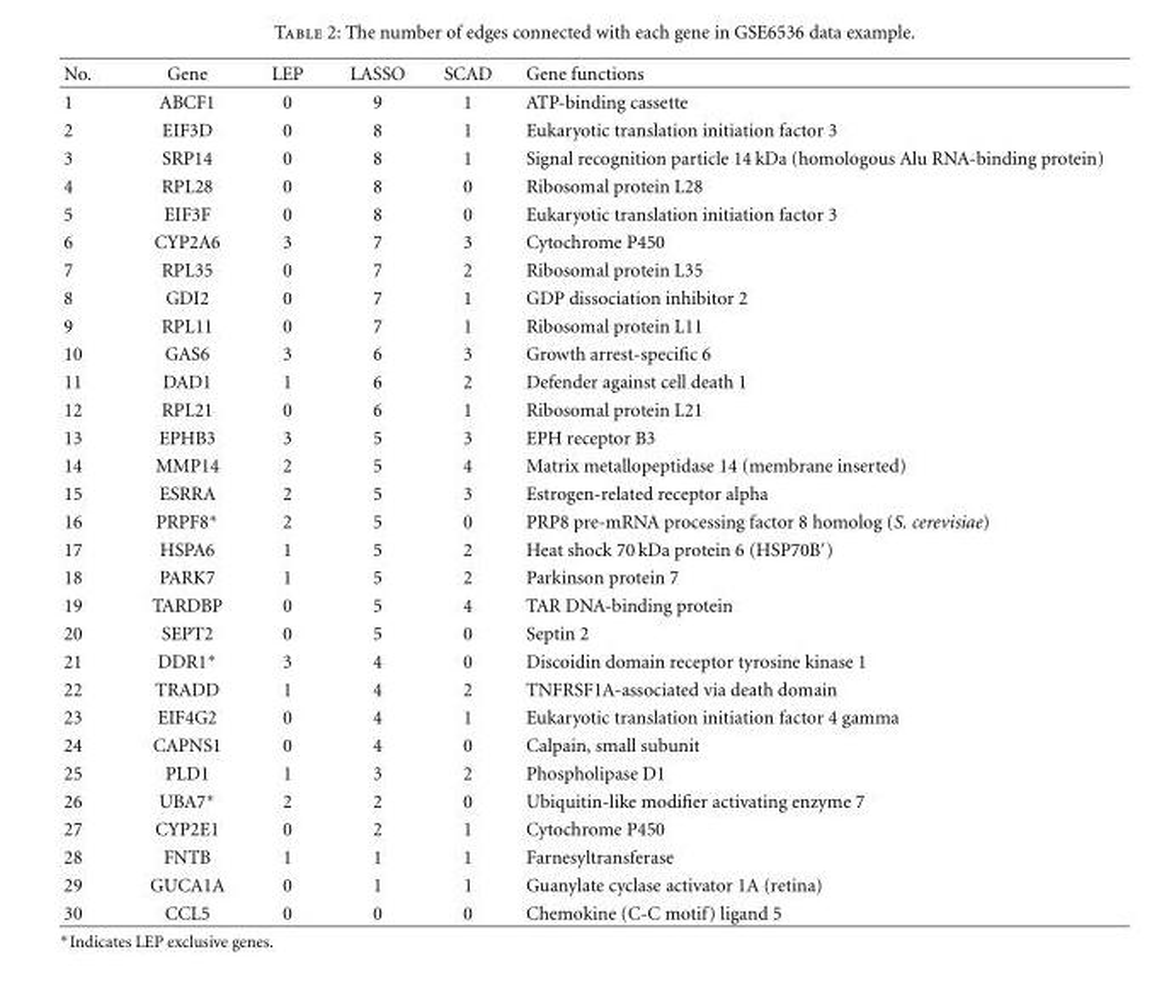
<table><thead><tr><td>No.</td><td>Gene</td><td>LEP</td><td>LASSO</td><td>SCAD</td><td>Gene functions</td></tr></thead><tbody><tr><td>1</td><td>ABCF1</td><td>0</td><td>9</td><td>1</td><td>ATP-binding cassette</td></tr><tr><td>2</td><td>EIF3D</td><td>0</td><td>8</td><td>1</td><td>Eukaryotic translation initiation factor 3</td></tr><tr><td>3</td><td>SRP14</td><td>0</td><td>8</td><td>1</td><td>Signal recognition particle 14 kDa (homologous Alu RNA-binding protein)</td></tr><tr><td>4</td><td>RPL28</td><td>0</td><td>8</td><td>0</td><td>Ribosomal protein L28</td></tr><tr><td>5</td><td>EIF3F</td><td>0</td><td>8</td><td>0</td><td>Eukaryotic translation initiation factor 3</td></tr><tr><td>6</td><td>CYP2A6</td><td>3</td><td>7</td><td>3</td><td>Cytochrome P450</td></tr><tr><td>7</td><td>RPL35</td><td>0</td><td>7</td><td>2</td><td>Ribosomal protein L35</td></tr><tr><td>8</td><td>GDI2</td><td>0</td><td>7</td><td>1</td><td>GDP dissociation inhibitor 2</td></tr><tr><td>9</td><td>RPL11</td><td>0</td><td>7</td><td>1</td><td>Ribosomal protein L11</td></tr><tr><td>10</td><td>GAS6</td><td>3</td><td>6</td><td>3</td><td>Growth arrest-specific 6</td></tr><tr><td>11</td><td>DAD1</td><td>1</td><td>6</td><td>2</td><td>Defender against cell death 1</td></tr><tr><td>12</td><td>RPL21</td><td>0</td><td>6</td><td>1</td><td>Ribosomal protein L21</td></tr><tr><td>13</td><td>EPHB3</td><td>3</td><td>5</td><td>3</td><td>EPH receptor B3</td></tr><tr><td>14</td><td>MMP14</td><td>2</td><td>5</td><td>4</td><td>Matrix metallopeptidase 14 (membrane inserted)</td></tr><tr><td>15</td><td>ESRRA</td><td>2</td><td>5</td><td>3</td><td>Estrogen-related receptor alpha</td></tr><tr><td>16</td><td>PRPF8∗</td><td>2</td><td>5</td><td>0</td><td>PRP8 pre-mRNA processing factor 8 homolog (S. cerevisiae)</td></tr><tr><td>17</td><td>HSPA6</td><td>1</td><td>5</td><td>2</td><td>Heat shock 70 kDa protein 6 (HSP70B′)</td></tr><tr><td>18</td><td>PARK7</td><td>1</td><td>5</td><td>2</td><td>Parkinson protein 7</td></tr><tr><td>19</td><td>TARDBP</td><td>0</td><td>5</td><td>4</td><td>TAR DNA-binding protein</td></tr><tr><td>20</td><td>SEPT2</td><td>0</td><td>5</td><td>0</td><td>Septin 2</td></tr><tr><td>21</td><td>DDR1∗</td><td>3</td><td>4</td><td>0</td><td>Discoidin domain receptor tyrosine kinase 1</td></tr><tr><td>22</td><td>TRADD</td><td>1</td><td>4</td><td>2</td><td>TNFRSF1A-associated via death domain</td></tr><tr><td>23</td><td>EIF4G2</td><td>0</td><td>4</td><td>1</td><td>Eukaryotic translation initiation factor 4 gamma</td></tr><tr><td>24</td><td>CAPNS1</td><td>0</td><td>4</td><td>0</td><td>Calpain, small subunit</td></tr><tr><td>25</td><td>PLD1</td><td>1</td><td>3</td><td>2</td><td>Phospholipase D1</td></tr><tr><td>26</td><td>UBA7∗</td><td>2</td><td>2</td><td>0</td><td>Ubiquitin-like modifier activating enzyme 7</td></tr><tr><td>27</td><td>CYP2E1</td><td>0</td><td>2</td><td>1</td><td>Cytochrome P450</td></tr><tr><td>28</td><td>FNTB</td><td>1</td><td>1</td><td>1</td><td>Farnesyltransferase</td></tr><tr><td>29</td><td>GUCA1A</td><td>0</td><td>1</td><td>1</td><td>Guanylate cyclase activator 1A (retina)</td></tr><tr><td>30</td><td>CCL5</td><td>0</td><td>0</td><td>0</td><td>Chemokine (C-C motif) ligand 5</td></tr></tbody></table>